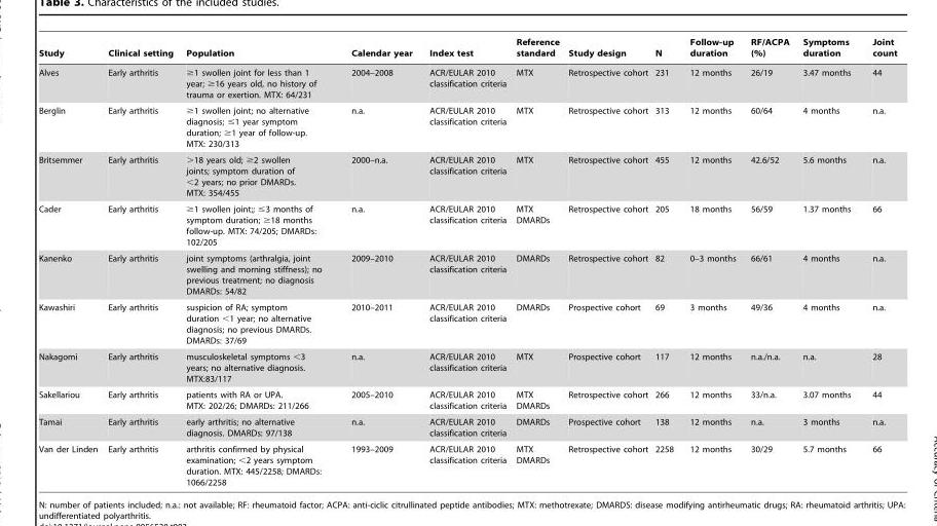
<table><thead><tr><td>Study</td><td>Clinical setting</td><td>Population</td><td>Calendar year</td><td>Index test</td><td>Reference standard</td><td>Study design</td><td>N</td><td>Follow-up duration</td><td>RF/ACPA (%)</td><td>Symptoms duration</td><td>Joint count</td></tr></thead><tbody><tr><td>Alves</td><td>Early arthritis</td><td>≥1 swollen joint for less than 1 year; ≥16 years old, no history of trauma or exertion. MTX: 64/231</td><td>2004–2008</td><td>ACR/EULAR 2010 classification criteria</td><td>MTX</td><td>Retrospective cohort</td><td>231</td><td>12 months</td><td>26/19</td><td>3.47 months</td><td>44</td></tr><tr><td>Berglin</td><td>Early arthritis</td><td>≥1 swollen joint; no alternative diagnosis; ≤1 year symptom duration; ≥1 year of follow-up. MTX: 230/313</td><td>n.a.</td><td>ACR/EULAR 2010 classification criteria</td><td>MTX</td><td>Retrospective cohort</td><td>313</td><td>12 months</td><td>60/64</td><td>4 months</td><td>n.a.</td></tr><tr><td>Britsemmer</td><td>Early arthritis</td><td>&gt;18 years old; ≥2 swollen joints; symptom duration of &lt;2 years; no prior DMARDs. MTX: 354/455</td><td>2000–n.a.</td><td>ACR/EULAR 2010 classification criteria</td><td>MTX</td><td>Retrospective cohort</td><td>455</td><td>12 months</td><td>42.6/52</td><td>5.6 months</td><td>n.a.</td></tr><tr><td>Cader</td><td>Early arthritis</td><td>≥1 swollen joint;; ≤3 months of symptom duration; ≥18 months follow-up. MTX: 74/205; DMARDs: 102/205</td><td>n.a.</td><td>ACR/EULAR 2010 classification criteria</td><td>MTX DMARDs</td><td>Retrospective cohort</td><td>205</td><td>18 months</td><td>56/59</td><td>1.37 months</td><td>66</td></tr><tr><td>Kanenko</td><td>Early arthritis</td><td>joint symptoms (arthralgia, joint swelling and morning stiffness); no previous treatment; no diagnosis DMARDs: 54/82</td><td>2009–2010</td><td>ACR/EULAR 2010 classification criteria</td><td>DMARDs</td><td>Retrospective cohort</td><td>82</td><td>0–3 months</td><td>66/61</td><td>4 months</td><td>n.a.</td></tr><tr><td>Kawashiri</td><td>Early arthritis</td><td>suspicion of RA; symptom duration &lt;1 year; no alternative diagnosis; no previous DMARDs. DMARDs: 37/69</td><td>2010–2011</td><td>ACR/EULAR 2010 classification criteria</td><td>DMARDs</td><td>Prospective cohort</td><td>69</td><td>3 months</td><td>49/36</td><td>4 months</td><td>n.a.</td></tr><tr><td>Nakagomi</td><td>Early arthritis</td><td>musculoskeletal symptoms &lt;3 years; no alternative diagnosis. MTX:83/117</td><td>n.a.</td><td>ACR/EULAR 2010 classification criteria</td><td>MTX</td><td>Prospective cohort</td><td>117</td><td>12 months</td><td>n.a./n.a.</td><td>n.a.</td><td>28</td></tr><tr><td>Sakellariou</td><td>Early arthritis</td><td>patients with RA or UPA. MTX: 202/26; DMARDs: 211/266</td><td>2005–2010</td><td>ACR/EULAR 2010 classification criteria</td><td>MTX DMARDs</td><td>Retrospective cohort</td><td>266</td><td>12 months</td><td>33/n.a.</td><td>3.07 months</td><td>44</td></tr><tr><td>Tamai</td><td>Early arthritis</td><td>early arthritis; no alternative diagnosis. DMARDs: 97/138</td><td>n.a.</td><td>ACR/EULAR 2010 classification criteria</td><td>DMARDs</td><td>Prospective cohort</td><td>138</td><td>12 months</td><td>n.a.</td><td>3 months</td><td>n.a.</td></tr><tr><td>Van der Linden</td><td>Early arthritis</td><td>arthritis confirmed by physical examination; &lt;2 years symptom duration. MTX: 445/2258; DMARDs: 1066/2258</td><td>1993–2009</td><td>ACR/EULAR 2010 classification criteria</td><td>MTX DMARDs</td><td>Retrospective cohort</td><td>2258</td><td>12 months</td><td>30/29</td><td>5.7 months</td><td>66</td></tr></tbody></table>